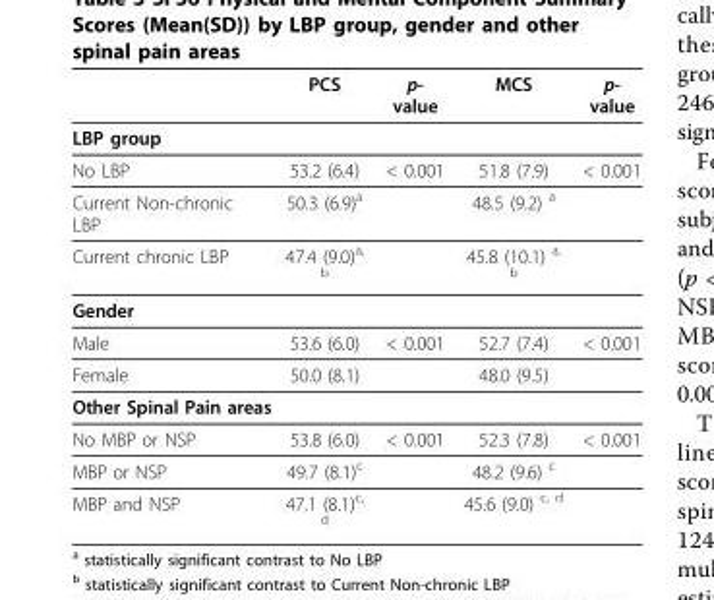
<table><thead><tr><td></td><td>PCS</td><td>p- value</td><td>MCS</td><td>p- value</td></tr></thead><tbody><tr><td colspan="5">LBP group</td></tr><tr><td>No LBP</td><td>53.2 (6.4)</td><td>&lt; 0.001</td><td>51.8 (7.9)</td><td>&lt; 0.001</td></tr><tr><td>Current Non-chronic LBP</td><td>50.3 (6.9)<sup>a</sup></td><td></td><td>48.5 (9.2) <sup>a</sup></td><td></td></tr><tr><td>Current chronic LBP</td><td>47.4 (9.0)<sup>a, b</sup></td><td></td><td>45.8 (10.1) <sup>a, b</sup></td><td></td></tr><tr><td colspan="5">Gender</td></tr><tr><td>Male</td><td>53.6 (6.0)</td><td>&lt; 0.001</td><td>52.7 (7.4)</td><td>&lt; 0.001</td></tr><tr><td>Female</td><td>50.0 (8.1)</td><td></td><td>48.0 (9.5)</td><td></td></tr><tr><td colspan="5">Other Spinal Pain areas</td></tr><tr><td>No MBP or NSP</td><td>53.8 (6.0)</td><td>&lt; 0.001</td><td>52.3 (7.8)</td><td>&lt; 0.001</td></tr><tr><td>MBP or NSP</td><td>49.7 (8.1)<sup>c</sup></td><td></td><td>48.2 (9.6) <sup>c</sup></td><td></td></tr><tr><td>MBP and NSP</td><td>47.1 (8.1)<sup>c, d</sup></td><td></td><td>45.6 (9.0) <sup>c, d</sup></td><td></td></tr></tbody></table>